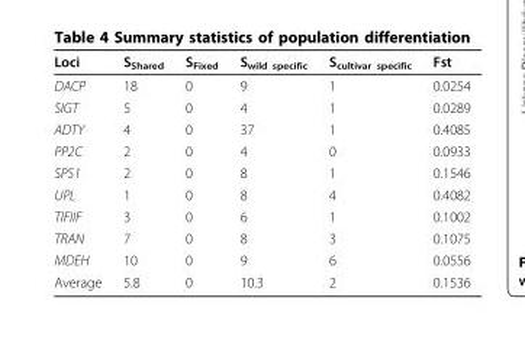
<table><thead><tr><td>Loci</td><td>S<sub>Shared</sub></td><td>S<sub>Fixed</sub></td><td>S<sub>wild specific</sub></td><td>S<sub>cultivar specific</sub></td><td>Fst</td></tr></thead><tbody><tr><td>DACP</td><td>18</td><td>0</td><td>9</td><td>1</td><td>0.0254</td></tr><tr><td>SIGT</td><td>5</td><td>0</td><td>4</td><td>1</td><td>0.0289</td></tr><tr><td>ADTY</td><td>4</td><td>0</td><td>37</td><td>1</td><td>0.4085</td></tr><tr><td>PP2C</td><td>2</td><td>0</td><td>4</td><td>0</td><td>0.0933</td></tr><tr><td>SPS1</td><td>2</td><td>0</td><td>8</td><td>1</td><td>0.1546</td></tr><tr><td>UPL</td><td>1</td><td>0</td><td>8</td><td>4</td><td>0.4082</td></tr><tr><td>TIFIIF</td><td>3</td><td>0</td><td>6</td><td>1</td><td>0.1002</td></tr><tr><td>TRAN</td><td>7</td><td>0</td><td>8</td><td>3</td><td>0.1075</td></tr><tr><td>MDEH</td><td>10</td><td>0</td><td>9</td><td>6</td><td>0.0556</td></tr><tr><td>Average</td><td>5.8</td><td>0</td><td>10.3</td><td>2</td><td>0.1536</td></tr></tbody></table>